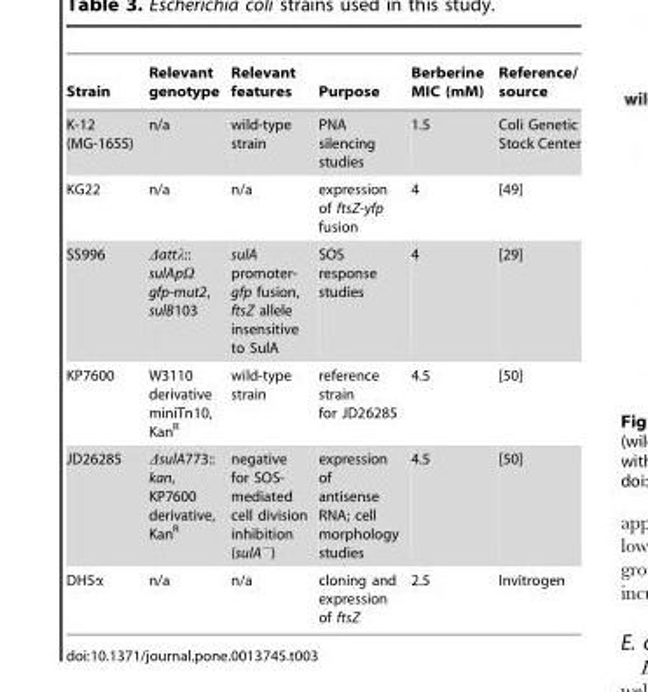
<table><thead><tr><td>Strain</td><td>Relevant genotype</td><td>Relevant features</td><td>Purpose</td><td>Berberine MIC (mM)</td><td>Reference/ source</td></tr></thead><tbody><tr><td>K-12 (MG-1655)</td><td>n/a</td><td>wild-type strain</td><td>PNA silencing studies</td><td>1.5</td><td>Coli Genetic Stock Center</td></tr><tr><td>KG22</td><td>n/a</td><td>n/a</td><td>expression of ftsZ-yfp fusion</td><td>4</td><td>[49]</td></tr><tr><td>SS996</td><td>Δattλ:: sulApΩ gfp-mut2, sulB103</td><td>sulA promoter- gfp fusion, ftsZ allele insensitive to SulA</td><td>SOS response studies</td><td>4</td><td>[29]</td></tr><tr><td>KP7600</td><td>W3110 derivative miniTn10, Kan<sup>R</sup></td><td>wild-type strain</td><td>reference strain for JD26285</td><td>4.5</td><td>[50]</td></tr><tr><td>JD26285</td><td>ΔsulA773:: kan, KP7600 derivative, Kan<sup>R</sup></td><td>negative for SOS- mediated cell division inhibition (sulA<sup>−</sup>)</td><td>expression of antisense RNA; cell morphology studies</td><td>4.5</td><td>[50]</td></tr><tr><td>DH5α</td><td>n/a</td><td>n/a</td><td>cloning and expression of ftsZ</td><td>2.5</td><td>Invitrogen</td></tr></tbody></table>